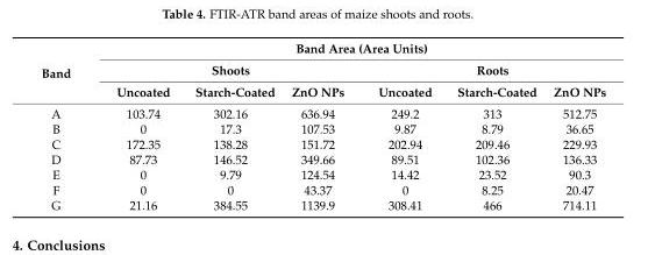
<table><thead><tr><td rowspan="3">Band</td><td colspan="6">Band Area (Area Units)</td></tr><tr><td colspan="3">Shoots</td><td colspan="3">Roots</td></tr><tr><td>Uncoated</td><td>Starch-Coated</td><td>ZnO NPs</td><td>Uncoated</td><td>Starch-Coated</td><td>ZnO NPs</td></tr></thead><tbody><tr><td>A</td><td>103.74</td><td>302.16</td><td>636.94</td><td>249.2</td><td>313</td><td>512.75</td></tr><tr><td>B</td><td>0</td><td>17.3</td><td>107.53</td><td>9.87</td><td>8.79</td><td>36.65</td></tr><tr><td>C</td><td>172.35</td><td>138.28</td><td>151.72</td><td>202.94</td><td>209.46</td><td>229.93</td></tr><tr><td>D</td><td>87.73</td><td>146.52</td><td>349.66</td><td>89.51</td><td>102.36</td><td>136.33</td></tr><tr><td>E</td><td>0</td><td>9.79</td><td>124.54</td><td>14.42</td><td>23.52</td><td>90.3</td></tr><tr><td>F</td><td>0</td><td>0</td><td>43.37</td><td>0</td><td>8.25</td><td>20.47</td></tr><tr><td>G</td><td>21.16</td><td>384.55</td><td>1139.9</td><td>308.41</td><td>466</td><td>714.11</td></tr></tbody></table>